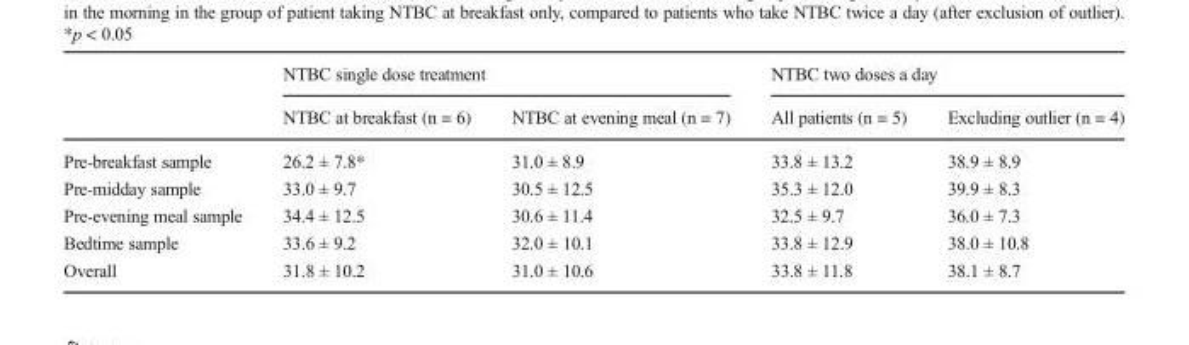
<table><thead><tr><td rowspan="2"></td><td colspan="2">NTBC single dose treatment</td><td colspan="2">NTBC two doses a day</td></tr><tr><td>NTBC at breakfast (n = 6)</td><td>NTBC at evening meal (n = 7)</td><td>All patients (n = 5)</td><td>Excluding outlier (n = 4)</td></tr></thead><tbody><tr><td>Pre-breakfast sample</td><td>26.2 ± 7.8*</td><td>31.0 ± 8.9</td><td>33.8 ± 13.2</td><td>38.9 ± 8.9</td></tr><tr><td>Pre-midday sample</td><td>33.0 ± 9.7</td><td>30.5 ± 12.5</td><td>35.3 ± 12.0</td><td>39.9 ± 8.3</td></tr><tr><td>Pre-evening meal sample</td><td>34.4 ± 12.5</td><td>30.6 ± 11.4</td><td>32.5 ± 9.7</td><td>36.0 ± 7.3</td></tr><tr><td>Bedtime sample</td><td>33.6 ± 9.2</td><td>32.0 ± 10.1</td><td>33.8 ± 12.9</td><td>38.0 ± 10.8</td></tr><tr><td>Overall</td><td>31.8 ± 10.2</td><td>31.0 ± 10.6</td><td>33.8 ± 11.8</td><td>38.1 ± 8.7</td></tr></tbody></table>